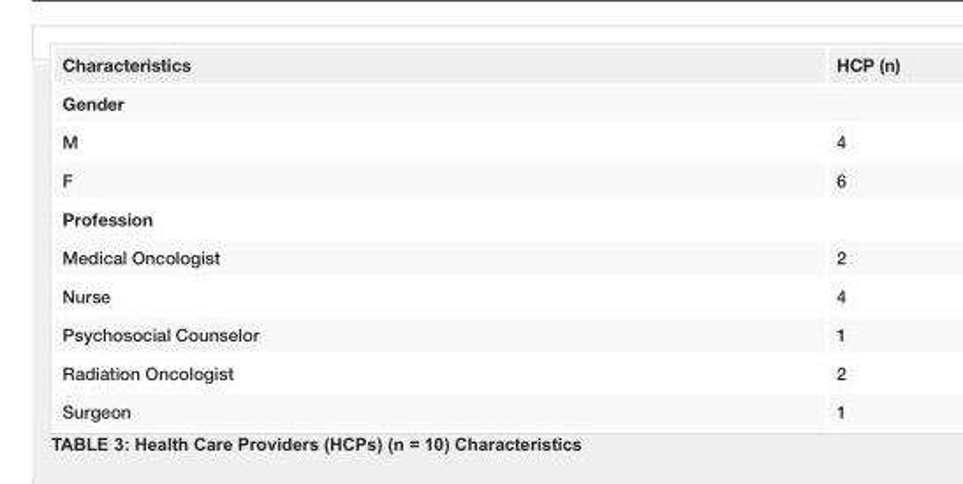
<table><tbody><tr><td>Characteristics</td><td>HCP (n)</td></tr><tr><td colspan="2">Gender</td></tr><tr><td>M</td><td>4</td></tr><tr><td>F</td><td>6</td></tr><tr><td colspan="2">Profession</td></tr><tr><td>Medical Oncologist</td><td>2</td></tr><tr><td>Nurse</td><td>4</td></tr><tr><td>Psychosocial Counselor</td><td>1</td></tr><tr><td>Radiation Oncologist</td><td>2</td></tr><tr><td>Surgeon</td><td>1</td></tr></tbody></table>